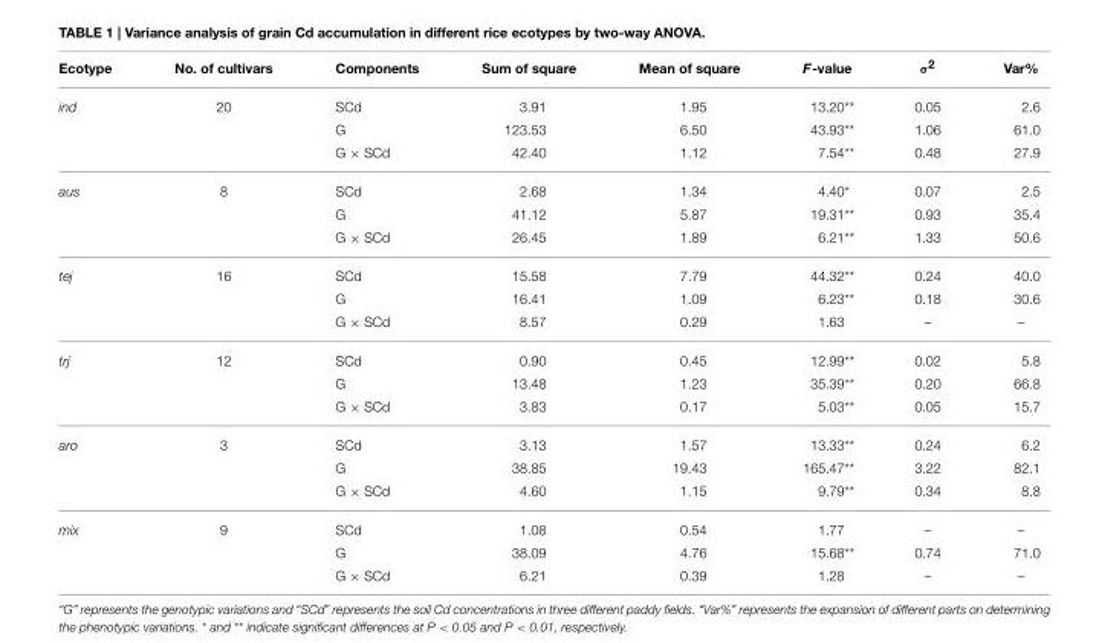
<table><thead><tr><td>Ecotype</td><td>No. of cultivars</td><td>Components</td><td>Sum of square</td><td>Mean of square</td><td>F-value</td><td>σ<sup>2</sup></td><td>Var%</td></tr></thead><tbody><tr><td rowspan="3">ind</td><td>20</td><td>SCd</td><td>3.91</td><td>1.95</td><td>13.20**</td><td>0.05</td><td>2.6</td></tr><tr><td></td><td>G</td><td>123.53</td><td>6.50</td><td>43.93**</td><td>1.06</td><td>61.0</td></tr><tr><td></td><td>G × SCd</td><td>42.40</td><td>1.12</td><td>7.54**</td><td>0.48</td><td>27.9</td></tr><tr><td rowspan="3">aus</td><td>8</td><td>SCd</td><td>2.68</td><td>1.34</td><td>4.40*</td><td>0.07</td><td>2.5</td></tr><tr><td></td><td>G</td><td>41.12</td><td>5.87</td><td>19.31**</td><td>0.93</td><td>35.4</td></tr><tr><td></td><td>G × SCd</td><td>26.45</td><td>1.89</td><td>6.21**</td><td>1.33</td><td>50.6</td></tr><tr><td rowspan="3">tej</td><td>16</td><td>SCd</td><td>15.58</td><td>7.79</td><td>44.32**</td><td>0.24</td><td>40.0</td></tr><tr><td></td><td>G</td><td>16.41</td><td>1.09</td><td>6.23**</td><td>0.18</td><td>30.6</td></tr><tr><td></td><td>G × SCd</td><td>8.57</td><td>0.29</td><td>1.63</td><td>–</td><td>–</td></tr><tr><td rowspan="3">trj</td><td>12</td><td>SCd</td><td>0.90</td><td>0.45</td><td>12.99**</td><td>0.02</td><td>5.8</td></tr><tr><td></td><td>G</td><td>13.48</td><td>1.23</td><td>35.39**</td><td>0.20</td><td>66.8</td></tr><tr><td></td><td>G × SCd</td><td>3.83</td><td>0.17</td><td>5.03**</td><td>0.05</td><td>15.7</td></tr><tr><td rowspan="3">aro</td><td>3</td><td>SCd</td><td>3.13</td><td>1.57</td><td>13.33**</td><td>0.24</td><td>6.2</td></tr><tr><td></td><td>G</td><td>38.85</td><td>19.43</td><td>165.47**</td><td>3.22</td><td>82.1</td></tr><tr><td></td><td>G × SCd</td><td>4.60</td><td>1.15</td><td>9.79**</td><td>0.34</td><td>8.8</td></tr><tr><td rowspan="3">mix</td><td>9</td><td>SCd</td><td>1.08</td><td>0.54</td><td>1.77</td><td>–</td><td>–</td></tr><tr><td></td><td>G</td><td>38.09</td><td>4.76</td><td>15.68**</td><td>0.74</td><td>71.0</td></tr><tr><td></td><td>G × SCd</td><td>6.21</td><td>0.39</td><td>1.28</td><td>–</td><td>–</td></tr></tbody></table>